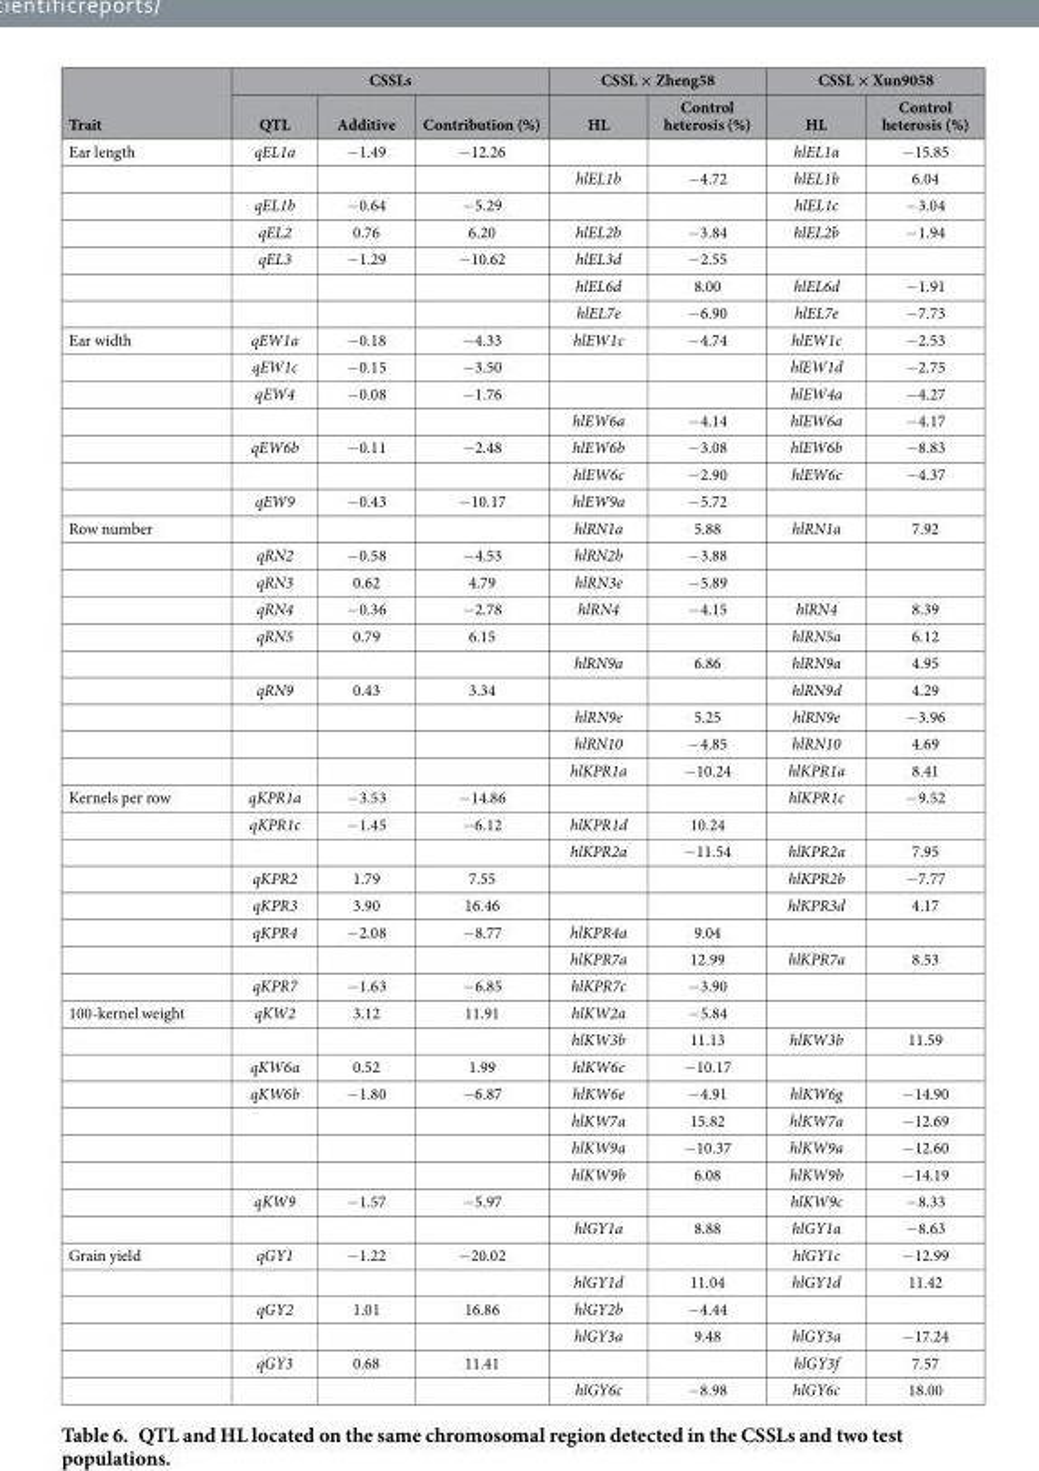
<table><thead><tr><td rowspan="2">Trait</td><td colspan="3">CSSLs</td><td colspan="2">CSSL × Zheng58</td><td colspan="2">CSSL × Xun9058</td></tr><tr><td>QTL</td><td>Additive</td><td>Contribution (%)</td><td>HL</td><td>Control heterosis (%)</td><td>HL</td><td>Control heterosis (%)</td></tr></thead><tbody><tr><td rowspan="7">Ear length</td><td>qEL1a</td><td>− 1.49</td><td>− 12.26</td><td></td><td></td><td>hlEL1a</td><td>− 15.85</td></tr><tr><td></td><td></td><td></td><td>hlEL1b</td><td>− 4.72</td><td>hlEL1b</td><td>6.04</td></tr><tr><td>qEL1b</td><td>− 0.64</td><td>− 5.29</td><td></td><td></td><td>hlEL1c</td><td>− 3.04</td></tr><tr><td>qEL2</td><td>0.76</td><td>6.20</td><td>hlEL2b</td><td>− 3.84</td><td>hlEL2b</td><td>− 1.94</td></tr><tr><td>qEL3</td><td>− 1.29</td><td>− 10.62</td><td>hlEL3d</td><td>− 2.55</td><td></td><td></td></tr><tr><td></td><td></td><td></td><td>hlEL6d</td><td>8.00</td><td>hlEL6d</td><td>− 1.91</td></tr><tr><td></td><td></td><td></td><td>hlEL7e</td><td>− 6.90</td><td>hlEL7e</td><td>− 7.73</td></tr><tr><td rowspan="7">Ear width</td><td>qEW1a</td><td>− 0.18</td><td>− 4.33</td><td>hlEW1c</td><td>− 4.74</td><td>hlEW1c</td><td>− 2.53</td></tr><tr><td>qEW1c</td><td>− 0.15</td><td>− 3.50</td><td></td><td></td><td>hlEW1d</td><td>− 2.75</td></tr><tr><td>qEW4</td><td>− 0.08</td><td>− 1.76</td><td></td><td></td><td>hlEW4a</td><td>− 4.27</td></tr><tr><td></td><td></td><td></td><td>hlEW6a</td><td>− 4.14</td><td>hlEW6a</td><td>− 4.17</td></tr><tr><td>qEW6b</td><td>− 0.11</td><td>− 2.48</td><td>hlEW6b</td><td>− 3.08</td><td>hlEW6b</td><td>− 8.83</td></tr><tr><td></td><td></td><td></td><td>hlEW6c</td><td>− 2.90</td><td>hlEW6c</td><td>− 4.37</td></tr><tr><td>qEW9</td><td>− 0.43</td><td>− 10.17</td><td>hlEW9a</td><td>− 5.72</td><td></td><td></td></tr><tr><td rowspan="10">Row number</td><td></td><td></td><td></td><td>hlRN1a</td><td>5.88</td><td>hlRN1a</td><td>7.92</td></tr><tr><td>qRN2</td><td>− 0.58</td><td>− 4.53</td><td>hlRN2b</td><td>− 3.88</td><td></td><td></td></tr><tr><td>qRN3</td><td>0.62</td><td>4.79</td><td>hlRN3e</td><td>− 5.89</td><td></td><td></td></tr><tr><td>qRN4</td><td>− 0.36</td><td>− 2.78</td><td>hlRN4</td><td>− 4.15</td><td>hlRN4</td><td>8.39</td></tr><tr><td>qRN5</td><td>0.79</td><td>6.15</td><td></td><td></td><td>hlRN5a</td><td>6.12</td></tr><tr><td></td><td></td><td></td><td>hlRN9a</td><td>6.86</td><td>hlRN9a</td><td>4.95</td></tr><tr><td>qRN9</td><td>0.43</td><td>3.34</td><td></td><td></td><td>hlRN9d</td><td>4.29</td></tr><tr><td></td><td></td><td></td><td>hlRN9e</td><td>5.25</td><td>hlRN9e</td><td>− 3.96</td></tr><tr><td></td><td></td><td></td><td>hlRN10</td><td>− 4.85</td><td>hlRN10</td><td>4.69</td></tr><tr><td></td><td></td><td></td><td>hlKPR1a</td><td>− 10.24</td><td>hlKPR1a</td><td>8.41</td></tr><tr><td rowspan="8">Kernels per row</td><td>qKPR1a</td><td>− 3.53</td><td>− 14.86</td><td></td><td></td><td>hlKPR1c</td><td>− 9.52</td></tr><tr><td>qKPR1c</td><td>− 1.45</td><td>− 6.12</td><td>hlKPR1d</td><td>10.24</td><td></td><td></td></tr><tr><td></td><td></td><td></td><td>hlKPR2a</td><td>− 11.54</td><td>hlKPR2a</td><td>7.95</td></tr><tr><td>qKPR2</td><td>1.79</td><td>7.55</td><td></td><td></td><td>hlKPR2b</td><td>− 7.77</td></tr><tr><td>qKPR3</td><td>3.90</td><td>16.46</td><td></td><td></td><td>hlKPR3d</td><td>4.17</td></tr><tr><td>qKPR4</td><td>− 2.08</td><td>− 8.77</td><td>hlKPR4a</td><td>9.04</td><td></td><td></td></tr><tr><td></td><td></td><td></td><td>hlKPR7a</td><td>12.99</td><td>hlKPR7a</td><td>8.53</td></tr><tr><td>qKPR7</td><td>− 1.63</td><td>− 6.85</td><td>hlKPR7c</td><td>− 3.90</td><td></td><td></td></tr><tr><td rowspan="9">100-kernel weight</td><td>qKW2</td><td>3.12</td><td>11.91</td><td>hlKW2a</td><td>− 5.84</td><td></td><td></td></tr><tr><td></td><td></td><td></td><td>hlKW3b</td><td>11.13</td><td>hlKW3b</td><td>11.59</td></tr><tr><td>qKW6a</td><td>0.52</td><td>1.99</td><td>hlKW6c</td><td>− 10.17</td><td></td><td></td></tr><tr><td>qKW6b</td><td>− 1.80</td><td>− 6.87</td><td>hlKW6e</td><td>− 4.91</td><td>hlKW6g</td><td>− 14.90</td></tr><tr><td></td><td></td><td></td><td>hlKW7a</td><td>15.82</td><td>hlKW7a</td><td>− 12.69</td></tr><tr><td></td><td></td><td></td><td>hlKW9a</td><td>− 10.37</td><td>hlKW9a</td><td>− 12.60</td></tr><tr><td></td><td></td><td></td><td>hlKW9b</td><td>6.08</td><td>hlKW9b</td><td>− 14.19</td></tr><tr><td>qKW9</td><td>− 1.57</td><td>− 5.97</td><td></td><td></td><td>hlKW9c</td><td>− 8.33</td></tr><tr><td></td><td></td><td></td><td>hlGY1a</td><td>8.88</td><td>hlGY1a</td><td>− 8.63</td></tr><tr><td rowspan="6">Grain yield</td><td>qGY1</td><td>− 1.22</td><td>− 20.02</td><td></td><td></td><td>hlGY1c</td><td>− 12.99</td></tr><tr><td></td><td></td><td></td><td>hlGY1d</td><td>11.04</td><td>hlGY1d</td><td>11.42</td></tr><tr><td>qGY2</td><td>1.01</td><td>16.86</td><td>hlGY2b</td><td>− 4.44</td><td></td><td></td></tr><tr><td></td><td></td><td></td><td>hlGY3a</td><td>9.48</td><td>hlGY3a</td><td>− 17.24</td></tr><tr><td>qGY3</td><td>0.68</td><td>11.41</td><td></td><td></td><td>hlGY3f</td><td>7.57</td></tr><tr><td></td><td></td><td></td><td>hlGY6c</td><td>− 8.98</td><td>hlGY6c</td><td>18.00</td></tr></tbody></table>